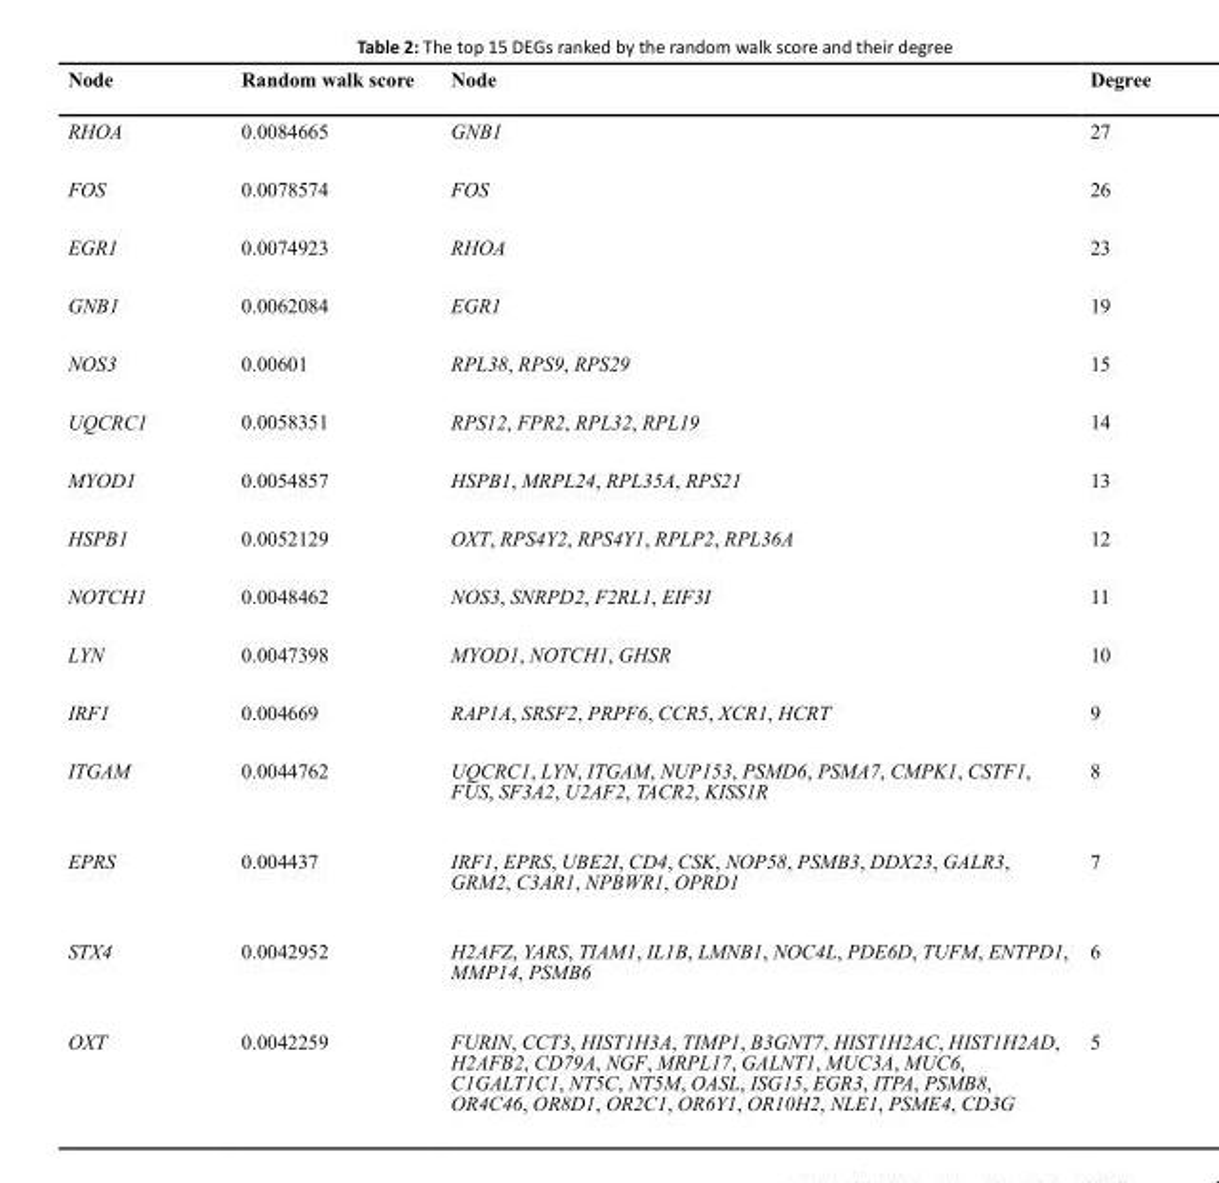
<table><thead><tr><td>Node</td><td>Random walk score</td><td>Node</td><td>Degree</td></tr></thead><tbody><tr><td>RHOA</td><td>0.0084665</td><td>GNB1</td><td>27</td></tr><tr><td>FOS</td><td>0.0078574</td><td>FOS</td><td>26</td></tr><tr><td>EGR1</td><td>0.0074923</td><td>RHOA</td><td>23</td></tr><tr><td>GNB1</td><td>0.0062084</td><td>EGR1</td><td>19</td></tr><tr><td>NOS3</td><td>0.00601</td><td>RPL38, RPS9, RPS29</td><td>15</td></tr><tr><td>UQCRC1</td><td>0.0058351</td><td>RPS12, FPR2, RPL32, RPL19</td><td>14</td></tr><tr><td>MYOD1</td><td>0.0054857</td><td>HSPB1, MRPL24, RPL35A, RPS21</td><td>13</td></tr><tr><td>HSPB1</td><td>0.0052129</td><td>OXT, RPS4Y2, RPS4Y1, RPLP2, RPL36A</td><td>12</td></tr><tr><td>NOTCH1</td><td>0.0048462</td><td>NOS3, SNRPD2, F2RL1, EIF3I</td><td>11</td></tr><tr><td>LYN</td><td>0.0047398</td><td>MYOD1, NOTCH1, GHSR</td><td>10</td></tr><tr><td>IRF1</td><td>0.004669</td><td>RAP1A, SRSF2, PRPF6, CCR5, XCR1, HCRT</td><td>9</td></tr><tr><td>ITGAM</td><td>0.0044762</td><td>UQCRC1, LYN, ITGAM, NUP153, PSMD6, PSMA7, CMPK1, CSTF1, FUS, SF3A2, U2AF2, TACR2, KISS1R</td><td>8</td></tr><tr><td>EPRS</td><td>0.004437</td><td>IRF1, EPRS, UBE2I, CD4, CSK, NOP58, PSMB3, DDX23, GALR3, GRM2, C3AR1, NPBWR1, OPRD1</td><td>7</td></tr><tr><td>STX4</td><td>0.0042952</td><td>H2AFZ, YARS, TIAM1, IL1B, LMNB1, NOC4L, PDE6D, TUFM, ENTPD1, MMP14, PSMB6</td><td>6</td></tr><tr><td>OXT</td><td>0.0042259</td><td>FURIN, CCT3, HIST1H3A, TIMP1, B3GNT7, HIST1H2AC, HIST1H2AD, H2AFB2, CD79A, NGF, MRPL17, GALNT1, MUC3A, MUC6, C1GALT1C1, NT5C, NT5M, OASL, ISG15, EGR3, ITPA, PSMB8, OR4C46, OR8D1, OR2C1, OR6Y1, OR10H2, NLE1, PSME4, CD3G</td><td>5</td></tr></tbody></table>